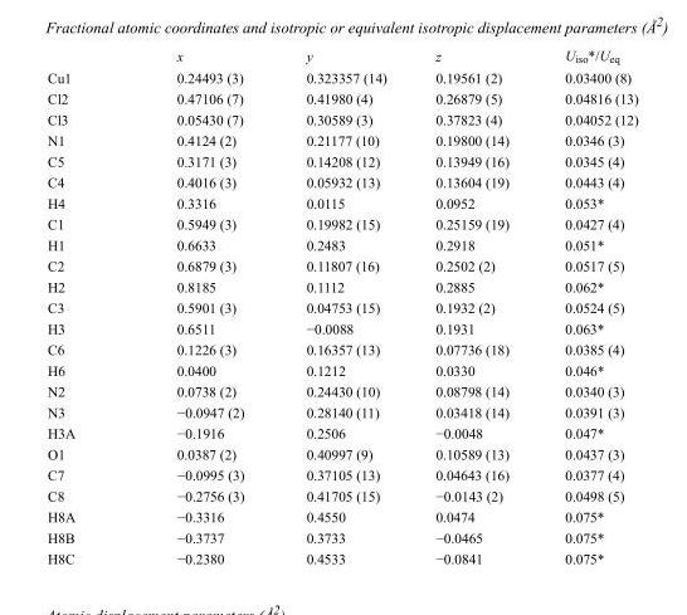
<table><thead><tr><td></td><td>x</td><td>y</td><td>z</td><td>U<sub>iso</sub>*/U<sub>eq</sub></td></tr></thead><tbody><tr><td>Cu1</td><td>0.24493 (3)</td><td>0.323357 (14)</td><td>0.19561 (2)</td><td>0.03400 (8)</td></tr><tr><td>Cl2</td><td>0.47106 (7)</td><td>0.41980 (4)</td><td>0.26879 (5)</td><td>0.04816 (13)</td></tr><tr><td>Cl3</td><td>0.05430 (7)</td><td>0.30589 (3)</td><td>0.37823 (4)</td><td>0.04052 (12)</td></tr><tr><td>N1</td><td>0.4124 (2)</td><td>0.21177 (10)</td><td>0.19800 (14)</td><td>0.0346 (3)</td></tr><tr><td>C5</td><td>0.3171 (3)</td><td>0.14208 (12)</td><td>0.13949 (16)</td><td>0.0345 (4)</td></tr><tr><td>C4</td><td>0.4016 (3)</td><td>0.05932 (13)</td><td>0.13604 (19)</td><td>0.0443 (4)</td></tr><tr><td>H4</td><td>0.3316</td><td>0.0115</td><td>0.0952</td><td>0.053*</td></tr><tr><td>C1</td><td>0.5949 (3)</td><td>0.19982 (15)</td><td>0.25159 (19)</td><td>0.0427 (4)</td></tr><tr><td>H1</td><td>0.6633</td><td>0.2483</td><td>0.2918</td><td>0.051*</td></tr><tr><td>C2</td><td>0.6879 (3)</td><td>0.11807 (16)</td><td>0.2502 (2)</td><td>0.0517 (5)</td></tr><tr><td>H2</td><td>0.8185</td><td>0.1112</td><td>0.2885</td><td>0.062*</td></tr><tr><td>C3</td><td>0.5901 (3)</td><td>0.04753 (15)</td><td>0.1932 (2)</td><td>0.0524 (5)</td></tr><tr><td>H3</td><td>0.6511</td><td>−0.0088</td><td>0.1931</td><td>0.063*</td></tr><tr><td>C6</td><td>0.1226 (3)</td><td>0.16357 (13)</td><td>0.07736 (18)</td><td>0.0385 (4)</td></tr><tr><td>H6</td><td>0.0400</td><td>0.1212</td><td>0.0330</td><td>0.046*</td></tr><tr><td>N2</td><td>0.0738 (2)</td><td>0.24430 (10)</td><td>0.08798 (14)</td><td>0.0340 (3)</td></tr><tr><td>N3</td><td>−0.0947 (2)</td><td>0.28140 (11)</td><td>0.03418 (14)</td><td>0.0391 (3)</td></tr><tr><td>H3A</td><td>−0.1916</td><td>0.2506</td><td>−0.0048</td><td>0.047*</td></tr><tr><td>O1</td><td>0.0387 (2)</td><td>0.40997 (9)</td><td>0.10589 (13)</td><td>0.0437 (3)</td></tr><tr><td>C7</td><td>−0.0995 (3)</td><td>0.37105 (13)</td><td>0.04643 (16)</td><td>0.0377 (4)</td></tr><tr><td>C8</td><td>−0.2756 (3)</td><td>0.41705 (15)</td><td>−0.0143 (2)</td><td>0.0498 (5)</td></tr><tr><td>H8A</td><td>−0.3316</td><td>0.4550</td><td>0.0474</td><td>0.075*</td></tr><tr><td>H8B</td><td>−0.3737</td><td>0.3733</td><td>−0.0465</td><td>0.075*</td></tr><tr><td>H8C</td><td>−0.2380</td><td>0.4533</td><td>−0.0841</td><td>0.075*</td></tr></tbody></table>